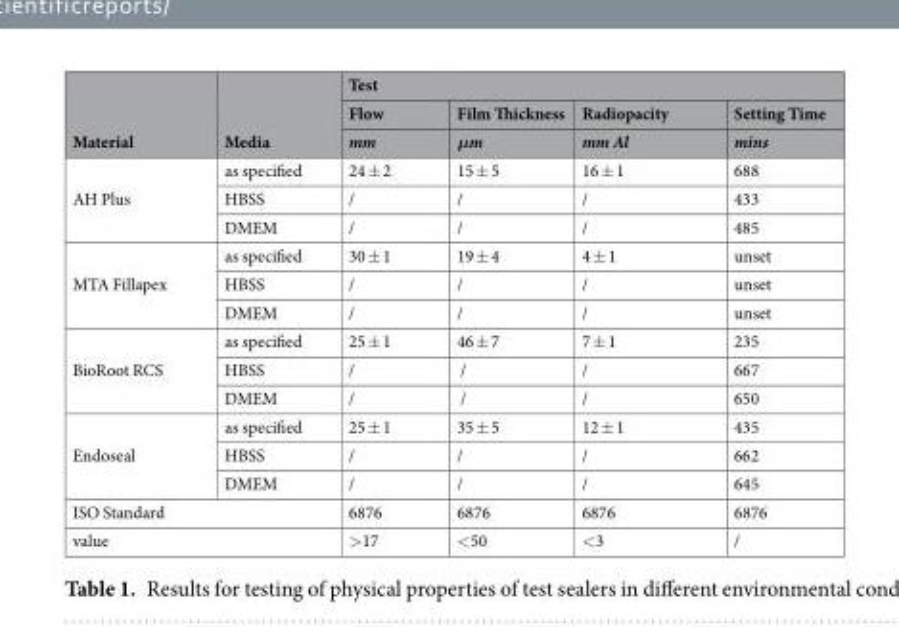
<table><thead><tr><td rowspan="3">Material</td><td rowspan="3">Media</td><td colspan="4">Test</td></tr><tr><td rowspan="2">Flow mm</td><td rowspan="2">Film Thickness μm</td><td rowspan="2">Radiopacity mm Al</td><td rowspan="2">Setting Time mins</td></tr><tr></tr></thead><tbody><tr><td rowspan="3">AH Plus</td><td>as specified</td><td>24 ± 2</td><td>15 ± 5</td><td>16 ± 1</td><td>688</td></tr><tr><td>HBSS</td><td>/</td><td>/</td><td>/</td><td>433</td></tr><tr><td>DMEM</td><td>/</td><td>/</td><td>/</td><td>485</td></tr><tr><td rowspan="3">MTA Fillapex</td><td>as specified</td><td>30 ± 1</td><td>19 ± 4</td><td>4 ± 1</td><td>unset</td></tr><tr><td>HBSS</td><td>/</td><td>/</td><td>/</td><td>unset</td></tr><tr><td>DMEM</td><td>/</td><td>/</td><td>/</td><td>unset</td></tr><tr><td rowspan="3">BioRoot RCS</td><td>as specified</td><td>25 ± 1</td><td>46 ± 7</td><td>7 ± 1</td><td>235</td></tr><tr><td>HBSS</td><td>/</td><td>/</td><td>/</td><td>667</td></tr><tr><td>DMEM</td><td>/</td><td>/</td><td>/</td><td>650</td></tr><tr><td rowspan="3">Endoseal</td><td>as specified</td><td>25 ± 1</td><td>35 ± 5</td><td>12 ± 1</td><td>435</td></tr><tr><td>HBSS</td><td>/</td><td>/</td><td>/</td><td>662</td></tr><tr><td>DMEM</td><td>/</td><td>/</td><td>/</td><td>645</td></tr><tr><td colspan="2">ISO Standard</td><td>6876</td><td>6876</td><td>6876</td><td>6876</td></tr><tr><td colspan="2">value</td><td>&gt;17</td><td>&lt;50</td><td>&lt;3</td><td>/</td></tr></tbody></table>